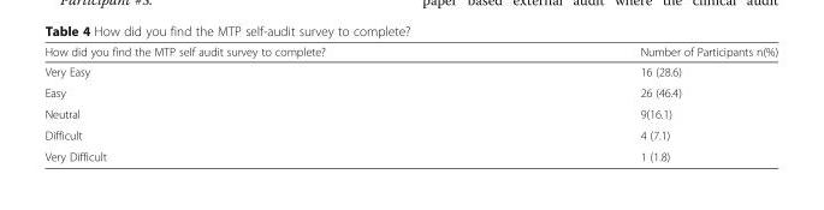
<table><thead><tr><td>How did you find the MTP self audit survey to complete?</td><td>Number of Participants n(%)</td></tr></thead><tbody><tr><td>Very Easy</td><td>16 (28.6)</td></tr><tr><td>Easy</td><td>26 (46.4)</td></tr><tr><td>Neutral</td><td>9(16.1)</td></tr><tr><td>Difficult</td><td>4 (7.1)</td></tr><tr><td>Very Difficult</td><td>1 (1.8)</td></tr></tbody></table>